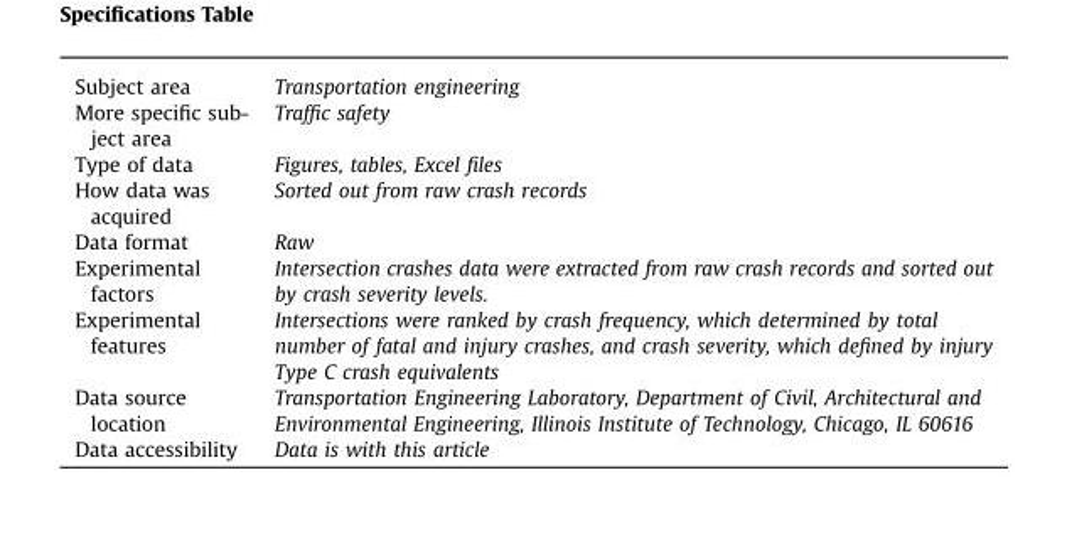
<table><tbody><tr><td>Subject area</td><td>Transportation engineering</td></tr><tr><td>More specific sub- ject area</td><td>Traffic safety</td></tr><tr><td>Type of data</td><td>Figures, tables, Excel files</td></tr><tr><td>How data was acquired</td><td>Sorted out from raw crash records</td></tr><tr><td>Data format</td><td>Raw</td></tr><tr><td>Experimental factors</td><td>Intersection crashes data were extracted from raw crash records and sorted out by crash severity levels.</td></tr><tr><td>Experimental features</td><td>Intersections were ranked by crash frequency, which determined by total number of fatal and injury crashes, and crash severity, which defined by injury Type C crash equivalents</td></tr><tr><td>Data source location</td><td>Transportation Engineering Laboratory, Department of Civil, Architectural and Environmental Engineering, Illinois Institute of Technology, Chicago, IL 60616</td></tr><tr><td>Data accessibility</td><td>Data is with this article</td></tr></tbody></table>